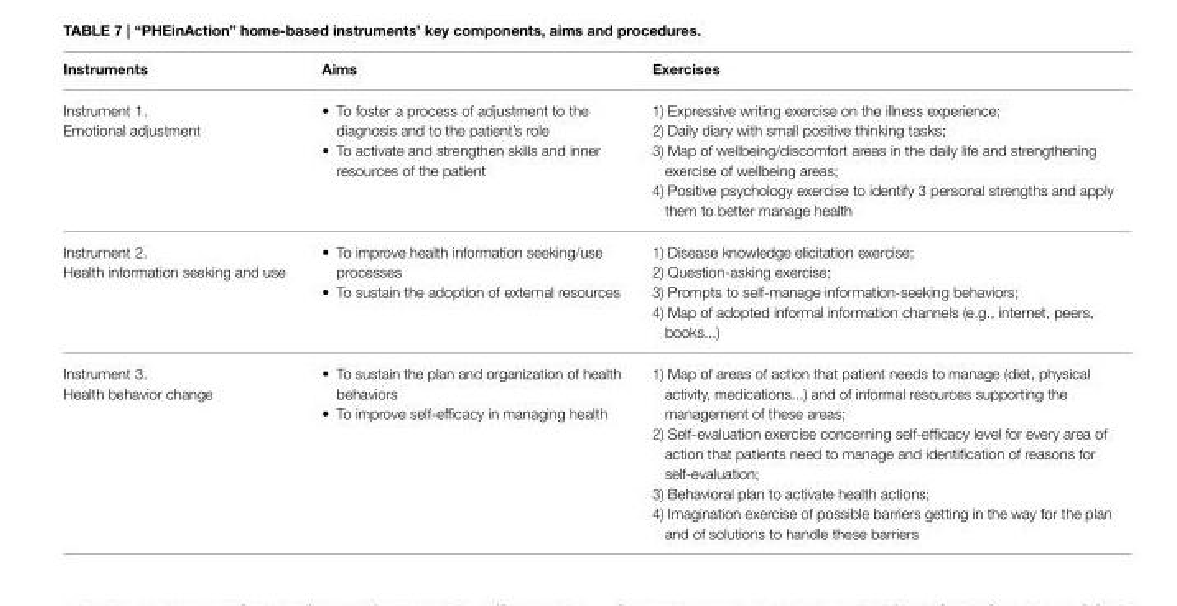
<table><thead><tr><td>Instruments</td><td>Aims</td><td>Exercises</td></tr></thead><tbody><tr><td>Instrument 1. Emotional adjustment</td><td>• To foster a process of adjustment to the diagnosis and to the patient’s role • To activate and strengthen skills and inner resources of the patient</td><td>1) Expressive writing exercise on the illness experience; 2) Daily diary with small positive thinking tasks; 3) Map of wellbeing/discomfort areas in the daily life and strengthening exercise of wellbeing areas; 4) Positive psychology exercise to identify 3 personal strengths and apply them to better manage health</td></tr><tr><td>Instrument 2. Health information seeking and use</td><td>• To improve health information seeking/use processes • To sustain the adoption of external resources</td><td>1) Disease knowledge elicitation exercise; 2) Question-asking exercise; 3) Prompts to self-manage information-seeking behaviors; 4) Map of adopted informal information channels (e.g., internet, peers, books...)</td></tr><tr><td>Instrument 3. Health behavior change</td><td>• To sustain the plan and organization of health behaviors • To improve self-efficacy in managing health</td><td>1) Map of areas of action that patient needs to manage (diet, physical activity, medications...) and of informal resources supporting the management of these areas; 2) Self-evaluation exercise concerning self-efficacy level for every area of action that patients need to manage and identification of reasons for self-evaluation; 3) Behavioral plan to activate health actions; 4) Imagination exercise of possible barriers getting in the way for the plan and of solutions to handle these barriers</td></tr></tbody></table>